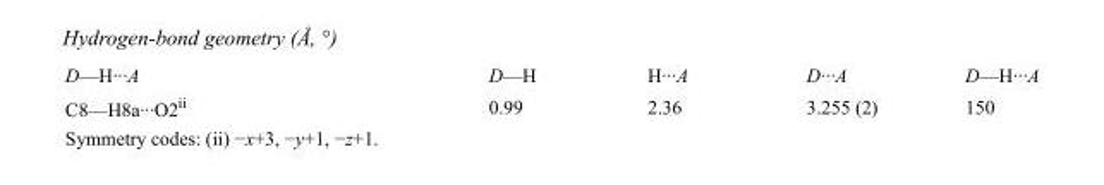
<table><tbody><tr><td>D—H···A</td><td>D—H</td><td>H···A</td><td>D···A</td><td>D—H···A</td></tr><tr><td>C8—H8a···O2<sup>ii</sup></td><td>0.99</td><td>2.36</td><td>3.255 (2)</td><td>150</td></tr></tbody></table>